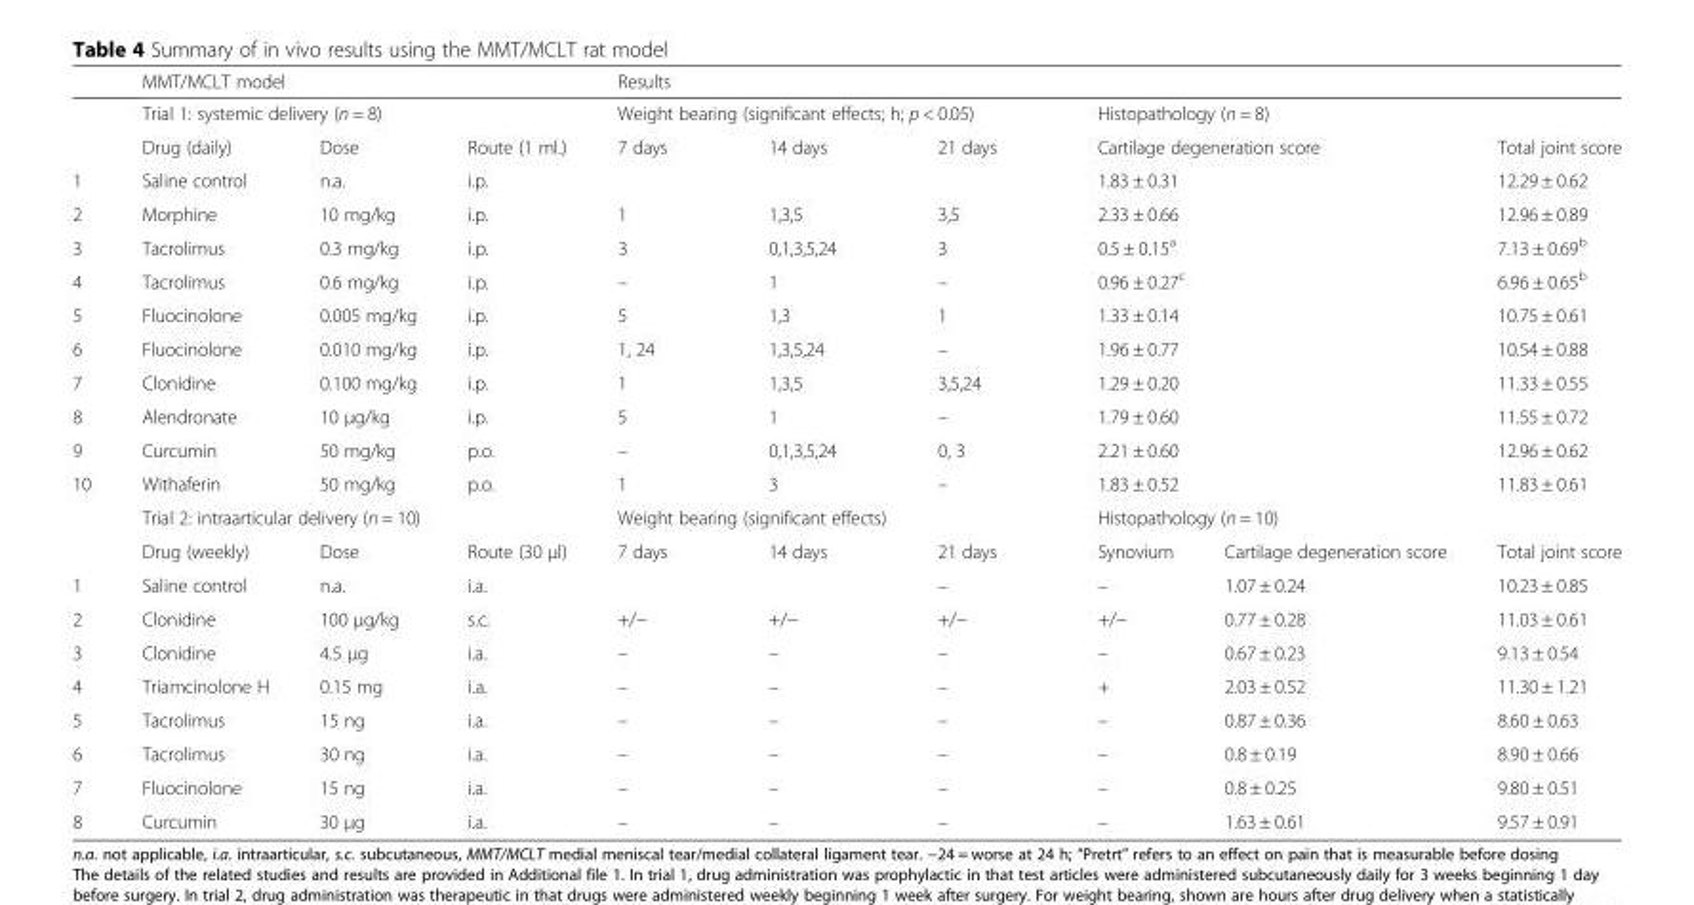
<table><thead><tr><td></td><td colspan="3">MMT/MCLT model</td><td colspan="6">Results</td></tr></thead><tbody><tr><td></td><td colspan="3">Trial 1: systemic delivery (n = 8)</td><td colspan="3">Weight bearing (significant effects; h; p &lt; 0.05)</td><td colspan="3">Histopathology (n = 8)</td></tr><tr><td></td><td>Drug (daily)</td><td>Dose</td><td>Route (1 ml.)</td><td>7 days</td><td>14 days</td><td>21 days</td><td colspan="2">Cartilage degeneration score</td><td>Total joint score</td></tr><tr><td>1</td><td>Saline control</td><td>n.a.</td><td>i.p.</td><td></td><td></td><td></td><td colspan="2">1.83 ± 0.31</td><td>12.29 ± 0.62</td></tr><tr><td>2</td><td>Morphine</td><td>10 mg/kg</td><td>i.p.</td><td>1</td><td>1,3,5</td><td>3,5</td><td colspan="2">2.33 ± 0.66</td><td>12.96 ± 0.89</td></tr><tr><td>3</td><td>Tacrolimus</td><td>0.3 mg/kg</td><td>i.p.</td><td>3</td><td>0,1,3,5,24</td><td>3</td><td colspan="2">0.5 ± 0.15<sup>a</sup></td><td>7.13 ± 0.69<sup>b</sup></td></tr><tr><td>4</td><td>Tacrolimus</td><td>0.6 mg/kg</td><td>i.p.</td><td>–</td><td>1</td><td>–</td><td colspan="2">0.96 ± 0.27<sup>c</sup></td><td>6.96 ± 0.65<sup>b</sup></td></tr><tr><td>5</td><td>Fluocinolone</td><td>0.005 mg/kg</td><td>i.p.</td><td>5</td><td>1,3</td><td>1</td><td colspan="2">1.33 ± 0.14</td><td>10.75 ± 0.61</td></tr><tr><td>6</td><td>Fluocinolone</td><td>0.010 mg/kg</td><td>i.p.</td><td>1, 24</td><td>1,3,5,24</td><td>–</td><td colspan="2">1.96 ± 0.77</td><td>10.54 ± 0.88</td></tr><tr><td>7</td><td>Clonidine</td><td>0.100 mg/kg</td><td>i.p.</td><td>1</td><td>1,3,5</td><td>3,5,24</td><td colspan="2">1.29 ± 0.20</td><td>11.33 ± 0.55</td></tr><tr><td>8</td><td>Alendronate</td><td>10 μg/kg</td><td>i.p.</td><td>5</td><td>1</td><td>–</td><td colspan="2">1.79 ± 0.60</td><td>11.55 ± 0.72</td></tr><tr><td>9</td><td>Curcumin</td><td>50 mg/kg</td><td>p.o.</td><td>–</td><td>0,1,3,5,24</td><td>0, 3</td><td colspan="2">2.21 ± 0.60</td><td>12.96 ± 0.62</td></tr><tr><td rowspan="3">10</td><td>Withaferin</td><td>50 mg/kg</td><td>p.o.</td><td>1</td><td>3</td><td>–</td><td colspan="2">1.83 ± 0.52</td><td>11.83 ± 0.61</td></tr><tr><td colspan="3">Trial 2: intraarticular delivery (n = 10)</td><td colspan="3">Weight bearing (significant effects)</td><td colspan="3">Histopathology (n = 10)</td></tr><tr><td>Drug (weekly)</td><td>Dose</td><td>Route (30 μl)</td><td>7 days</td><td>14 days</td><td>21 days</td><td>Synovium</td><td>Cartilage degeneration score</td><td>Total joint score</td></tr><tr><td>1</td><td>Saline control</td><td>n.a.</td><td>i.a.</td><td></td><td></td><td>–</td><td>–</td><td>1.07 ± 0.24</td><td>10.23 ± 0.85</td></tr><tr><td>2</td><td>Clonidine</td><td>100 μg/kg</td><td>s.c.</td><td>+/−</td><td>+/−</td><td>+/−</td><td>+/−</td><td>0.77 ± 0.28</td><td>11.03 ± 0.61</td></tr><tr><td>3</td><td>Clonidine</td><td>4.5 μg</td><td>i.a.</td><td>–</td><td>–</td><td>–</td><td>–</td><td>0.67 ± 0.23</td><td>9.13 ± 0.54</td></tr><tr><td>4</td><td>Triamcinolone H</td><td>0.15 mg</td><td>i.a.</td><td>–</td><td>–</td><td>–</td><td>+</td><td>2.03 ± 0.52</td><td>11.30 ± 1.21</td></tr><tr><td>5</td><td>Tacrolimus</td><td>15 ng</td><td>i.a.</td><td>–</td><td>–</td><td>–</td><td>–</td><td>0.87 ± 0.36</td><td>8.60 ± 0.63</td></tr><tr><td>6</td><td>Tacrolimus</td><td>30 ng</td><td>i.a.</td><td>–</td><td>–</td><td>–</td><td>–</td><td>0.8 ± 0.19</td><td>8.90 ± 0.66</td></tr><tr><td>7</td><td>Fluocinolone</td><td>15 ng</td><td>i.a.</td><td>–</td><td>–</td><td>–</td><td>–</td><td>0.8 ± 0.25</td><td>9.80 ± 0.51</td></tr><tr><td>8</td><td>Curcumin</td><td>30 μg</td><td>i.a.</td><td>–</td><td>–</td><td>–</td><td>–</td><td>1.63 ± 0.61</td><td>9.57 ± 0.91</td></tr></tbody></table>